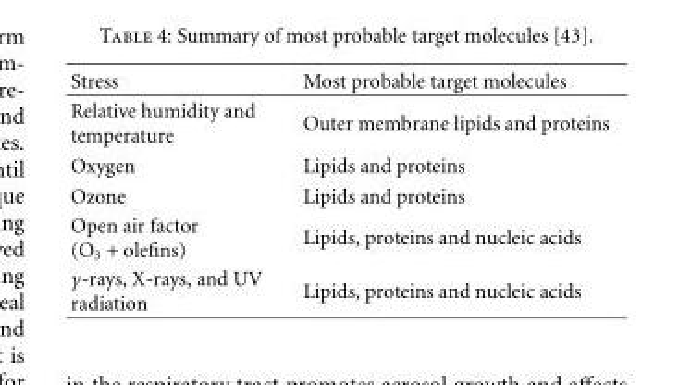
<table><thead><tr><td>Stress</td><td>Most probable target molecules</td></tr></thead><tbody><tr><td>Relative humidity and temperature</td><td>Outer membrane lipids and proteins</td></tr><tr><td>Oxygen</td><td>Lipids and proteins</td></tr><tr><td>Ozone</td><td>Lipids and proteins</td></tr><tr><td>Open air factor (O<sub>3</sub> + olefins)</td><td>Lipids, proteins and nucleic acids</td></tr><tr><td>γ-rays, X-rays, and UV radiation</td><td>Lipids, proteins and nucleic acids</td></tr></tbody></table>